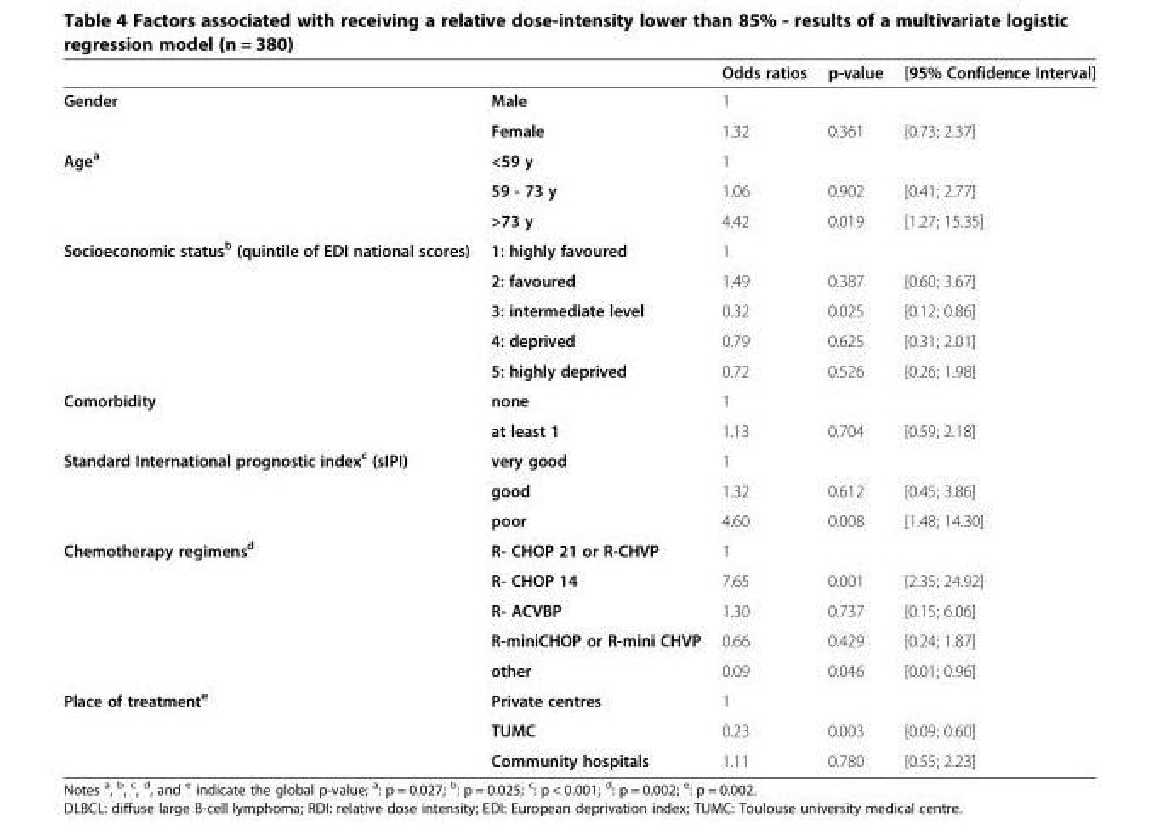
<table><thead><tr><td></td><td></td><td>Odds ratios</td><td>p-value</td><td>[95% Confidence Interval]</td></tr></thead><tbody><tr><td rowspan="2">Gender</td><td>Male</td><td>1</td><td></td><td></td></tr><tr><td>Female</td><td>1.32</td><td>0.361</td><td>[0.73; 2.37]</td></tr><tr><td rowspan="3">Age<sup>a</sup></td><td>&lt;59 y</td><td>1</td><td></td><td></td></tr><tr><td>59 - 73 y</td><td>1.06</td><td>0.902</td><td>[0.41; 2.77]</td></tr><tr><td>&gt;73 y</td><td>4.42</td><td>0.019</td><td>[1.27; 15.35]</td></tr><tr><td rowspan="5">Socioeconomic status<sup>b</sup> (quintile of EDI national scores)</td><td>1: highly favoured</td><td>1</td><td></td><td></td></tr><tr><td>2: favoured</td><td>1.49</td><td>0.387</td><td>[0.60; 3.67]</td></tr><tr><td>3: intermediate level</td><td>0.32</td><td>0.025</td><td>[0.12; 0.86]</td></tr><tr><td>4: deprived</td><td>0.79</td><td>0.625</td><td>[0.31; 2.01]</td></tr><tr><td>5: highly deprived</td><td>0.72</td><td>0.526</td><td>[0.26; 1.98]</td></tr><tr><td rowspan="2">Comorbidity</td><td>none</td><td>1</td><td></td><td></td></tr><tr><td>at least 1</td><td>1.13</td><td>0.704</td><td>[0.59; 2.18]</td></tr><tr><td rowspan="3">Standard International prognostic index<sup>c</sup> (sIPI)</td><td>very good</td><td>1</td><td></td><td></td></tr><tr><td>good</td><td>1.32</td><td>0.612</td><td>[0.45; 3.86]</td></tr><tr><td>poor</td><td>4.60</td><td>0.008</td><td>[1.48; 14.30]</td></tr><tr><td rowspan="5">Chemotherapy regimens<sup>d</sup></td><td>R- CHOP 21 or R-CHVP</td><td>1</td><td></td><td></td></tr><tr><td>R- CHOP 14</td><td>7.65</td><td>0.001</td><td>[2.35; 24.92]</td></tr><tr><td>R- ACVBP</td><td>1.30</td><td>0.737</td><td>[0.15; 6.06]</td></tr><tr><td>R-miniCHOP or R-mini CHVP</td><td>0.66</td><td>0.429</td><td>[0.24; 1.87]</td></tr><tr><td>other</td><td>0.09</td><td>0.046</td><td>[0.01; 0.96]</td></tr><tr><td rowspan="3">Place of treatment<sup>e</sup></td><td>Private centres</td><td>1</td><td></td><td></td></tr><tr><td>TUMC</td><td>0.23</td><td>0.003</td><td>[0.09; 0.60]</td></tr><tr><td>Community hospitals</td><td>1.11</td><td>0.780</td><td>[0.55; 2.23]</td></tr></tbody></table>